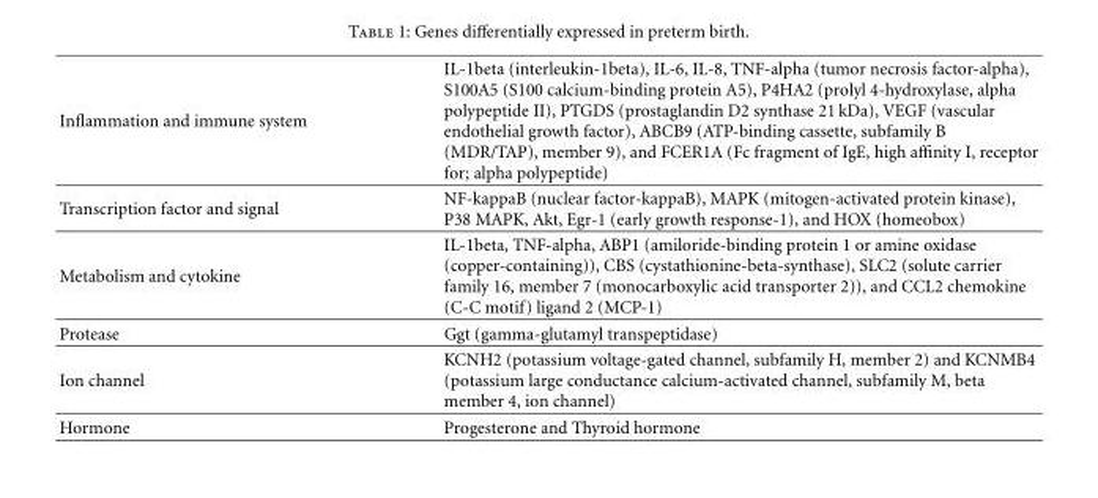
<table><tbody><tr><td>Inflammation and immune system</td><td>IL-1beta (interleukin-1beta), IL-6, IL-8, TNF-alpha (tumor necrosis factor-alpha), S100A5 (S100 calcium-binding protein A5), P4HA2 (prolyl 4-hydroxylase, alpha polypeptide II), PTGDS (prostaglandin D2 synthase 21 kDa), VEGF (vascular endothelial growth factor), ABCB9 (ATP-binding cassette, subfamily B (MDR/TAP), member 9), and FCER1A (Fc fragment of IgE, high affinity I, receptor for; alpha polypeptide)</td></tr><tr><td>Transcription factor and signal</td><td>NF-kappaB (nuclear factor-kappaB), MAPK (mitogen-activated protein kinase), P38 MAPK, Akt, Egr-1 (early growth response-1), and HOX (homeobox)</td></tr><tr><td>Metabolism and cytokine</td><td>IL-1beta, TNF-alpha, ABP1 (amiloride-binding protein 1 or amine oxidase (copper-containing)), CBS (cystathionine-beta-synthase), SLC2 (solute carrier family 16, member 7 (monocarboxylic acid transporter 2)), and CCL2 chemokine (C-C motif) ligand 2 (MCP-1)</td></tr><tr><td>Protease</td><td>Ggt (gamma-glutamyl transpeptidase)</td></tr><tr><td>Ion channel</td><td>KCNH2 (potassium voltage-gated channel, subfamily H, member 2) and KCNMB4 (potassium large conductance calcium-activated channel, subfamily M, beta member 4, ion channel)</td></tr><tr><td>Hormone</td><td>Progesterone and Thyroid hormone</td></tr></tbody></table>